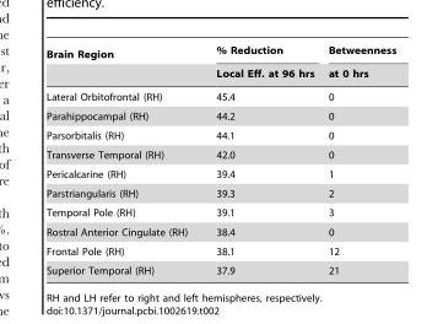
<table><thead><tr><td rowspan="2">Brain Region</td><td rowspan="2">% Reduction Local Eff. at 96 hrs</td><td rowspan="2">Betweenness at 0 hrs</td></tr><tr></tr></thead><tbody><tr><td>Lateral Orbitofrontal (RH)</td><td>45.4</td><td>0</td></tr><tr><td>Parahippocampal (RH)</td><td>44.2</td><td>0</td></tr><tr><td>Parsorbitalis (RH)</td><td>44.1</td><td>0</td></tr><tr><td>Transverse Temporal (RH)</td><td>42.0</td><td>0</td></tr><tr><td>Pericalcarine (RH)</td><td>39.4</td><td>1</td></tr><tr><td>Parstriangularis (RH)</td><td>39.3</td><td>2</td></tr><tr><td>Temporal Pole (RH)</td><td>39.1</td><td>3</td></tr><tr><td>Rostral Anterior Cingulate (RH)</td><td>38.4</td><td>0</td></tr><tr><td>Frontal Pole (RH)</td><td>38.1</td><td>12</td></tr><tr><td>Superior Temporal (RH)</td><td>37.9</td><td>21</td></tr></tbody></table>